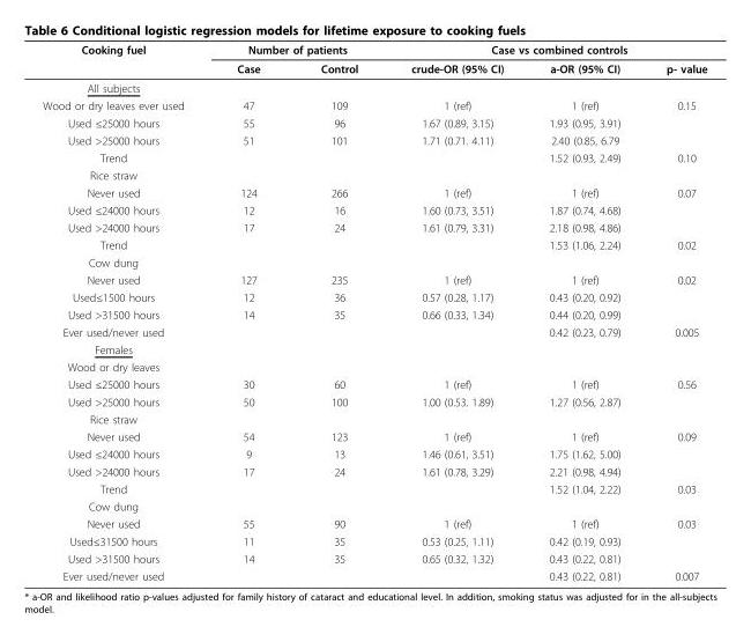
<table><thead><tr><td rowspan="2">Cooking fuel</td><td colspan="2">Number of patients</td><td colspan="3">Case vs combined controls</td></tr><tr><td>Case</td><td>Control</td><td>crude-OR (95% CI)</td><td>a-OR (95% CI)</td><td>p- value</td></tr></thead><tbody><tr><td colspan="6">All subjects</td></tr><tr><td>Wood or dry leaves ever used</td><td>47</td><td>109</td><td>1 (ref)</td><td>1 (ref)</td><td>0.15</td></tr><tr><td>Used ≤25000 hours</td><td>55</td><td>96</td><td>1.67 (0.89, 3.15)</td><td>1.93 (0.95, 3.91)</td><td></td></tr><tr><td>Used &gt;25000 hours</td><td>51</td><td>101</td><td>1.71 (0.71. 4.11)</td><td>2.40 (0.85, 6.79</td><td></td></tr><tr><td>Trend</td><td></td><td></td><td></td><td>1.52 (0.93, 2.49)</td><td>0.10</td></tr><tr><td colspan="6">Rice straw</td></tr><tr><td>Never used</td><td>124</td><td>266</td><td>1 (ref)</td><td>1 (ref)</td><td>0.07</td></tr><tr><td>Used ≤24000 hours</td><td>12</td><td>16</td><td>1.60 (0.73, 3.51)</td><td>1.87 (0.74, 4.68)</td><td></td></tr><tr><td>Used &gt;24000 hours</td><td>17</td><td>24</td><td>1.61 (0.79, 3.31)</td><td>2.18 (0.98, 4.86)</td><td></td></tr><tr><td>Trend</td><td></td><td></td><td></td><td>1.53 (1.06, 2.24)</td><td>0.02</td></tr><tr><td colspan="6">Cow dung</td></tr><tr><td>Never used</td><td>127</td><td>235</td><td>1 (ref)</td><td>1 (ref)</td><td>0.02</td></tr><tr><td>Used≤1500 hours</td><td>12</td><td>36</td><td>0.57 (0.28, 1.17)</td><td>0.43 (0.20, 0.92)</td><td></td></tr><tr><td>Used &gt;31500 hours</td><td>14</td><td>35</td><td>0.66 (0.33, 1.34)</td><td>0.44 (0.20, 0.99)</td><td></td></tr><tr><td>Ever used/never used</td><td></td><td></td><td></td><td>0.42 (0.23, 0.79)</td><td>0.005</td></tr><tr><td colspan="6">Females</td></tr><tr><td colspan="6">Wood or dry leaves</td></tr><tr><td>Used ≤25000 hours</td><td>30</td><td>60</td><td>1 (ref)</td><td>1 (ref)</td><td>0.56</td></tr><tr><td>Used &gt;25000 hours</td><td>50</td><td>100</td><td>1.00 (0.53. 1.89)</td><td>1.27 (0.56, 2.87)</td><td></td></tr><tr><td colspan="6">Rice straw</td></tr><tr><td>Never used</td><td>54</td><td>123</td><td>1 (ref)</td><td>1 (ref)</td><td>0.09</td></tr><tr><td>Used ≤24000 hours</td><td>9</td><td>13</td><td>1.46 (0.61, 3.51)</td><td>1.75 (1.62, 5.00)</td><td></td></tr><tr><td>Used &gt;24000 hours</td><td>17</td><td>24</td><td>1.61 (0.78, 3.29)</td><td>2.21 (0.98, 4.94)</td><td></td></tr><tr><td>Trend</td><td></td><td></td><td></td><td>1.52 (1.04, 2.22)</td><td>0.03</td></tr><tr><td colspan="6">Cow dung</td></tr><tr><td>Never used</td><td>55</td><td>90</td><td>1 (ref)</td><td>1 (ref)</td><td>0.03</td></tr><tr><td>Used≤31500 hours</td><td>11</td><td>35</td><td>0.53 (0.25, 1.11)</td><td>0.42 (0.19, 0.93)</td><td></td></tr><tr><td>Used &gt;31500 hours</td><td>14</td><td>35</td><td>0.65 (0.32, 1.32)</td><td>0.43 (0.22, 0.81)</td><td></td></tr><tr><td>Ever used/never used</td><td></td><td></td><td></td><td>0.43 (0.22, 0.81)</td><td>0.007</td></tr></tbody></table>